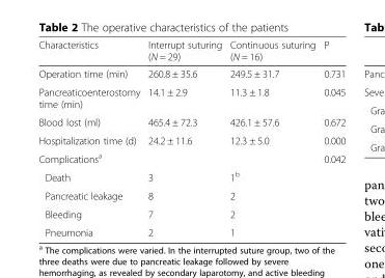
<table><thead><tr><td>Characteristics</td><td>Interrupt suturing (N = 29)</td><td>Continuous suturing (N = 16)</td><td>P</td></tr></thead><tbody><tr><td>Operation time (min)</td><td>260.8 ± 35.6</td><td>249.5 ± 31.7</td><td>0.731</td></tr><tr><td>Pancreaticoenterostomy time (min)</td><td>14.1 ± 2.9</td><td>11.3 ± 1.8</td><td>0.045</td></tr><tr><td>Blood lost (ml)</td><td>465.4 ± 72.3</td><td>426.1 ± 57.6</td><td>0.672</td></tr><tr><td>Hospitalization time (d)</td><td>24.2 ± 11.6</td><td>12.3 ± 5.0</td><td>0.000</td></tr><tr><td>Complications<sup>a</sup></td><td></td><td></td><td>0.042</td></tr><tr><td>Death</td><td>3</td><td>1<sup>b</sup></td><td></td></tr><tr><td>Pancreatic leakage</td><td>8</td><td>2</td><td></td></tr><tr><td>Bleeding</td><td>7</td><td>2</td><td></td></tr><tr><td>Pneumonia</td><td>2</td><td>1</td><td></td></tr></tbody></table>